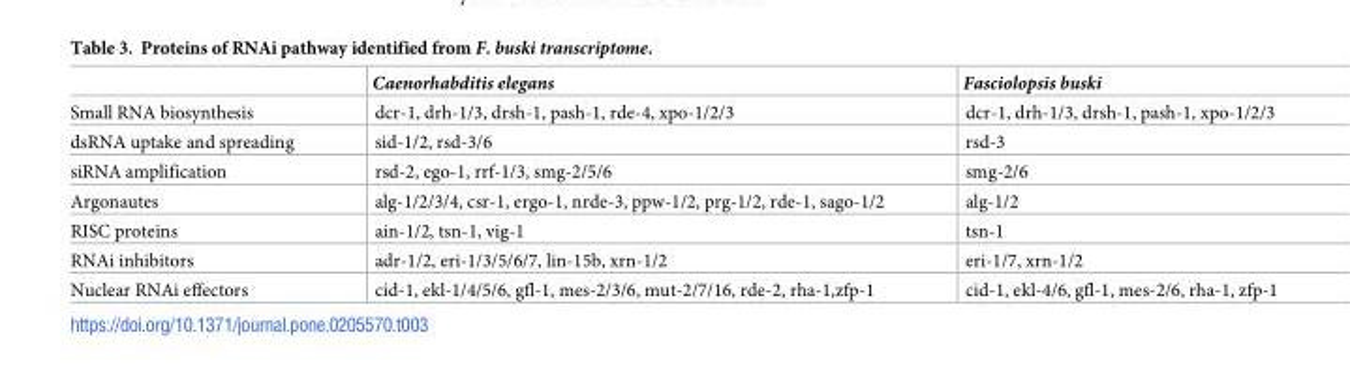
<table><thead><tr><td></td><td>Caenorhabditis elegans</td><td>Fasciolopsis buski</td></tr></thead><tbody><tr><td>Small RNA biosynthesis</td><td>dcr-1, drh-1/3, drsh-1, pash-1, rde-4, xpo-1/2/3</td><td>dcr-1, drh-1/3, drsh-1, pash-1, xpo-1/2/3</td></tr><tr><td>dsRNA uptake and spreading</td><td>sid-1/2, rsd-3/6</td><td>rsd-3</td></tr><tr><td>siRNA amplification</td><td>rsd-2, ego-1, rrf-1/3, smg-2/5/6</td><td>smg-2/6</td></tr><tr><td>Argonautes</td><td>alg-1/2/3/4, csr-1, ergo-1, nrde-3, ppw-1/2, prg-1/2, rde-1, sago-1/2</td><td>alg-1/2</td></tr><tr><td>RISC proteins</td><td>ain-1/2, tsn-1, vig-1</td><td>tsn-1</td></tr><tr><td>RNAi inhibitors</td><td>adr-1/2, eri-1/3/5/6/7, lin-15b, xrn-1/2</td><td>eri-1/7, xrn-1/2</td></tr><tr><td>Nuclear RNAi effectors</td><td>cid-1, ekl-1/4/5/6, gfl-1, mes-2/3/6, mut-2/7/16, rde-2, rha-1,zfp-1</td><td>cid-1, ekl-4/6, gfl-1, mes-2/6, rha-1, zfp-1</td></tr></tbody></table>